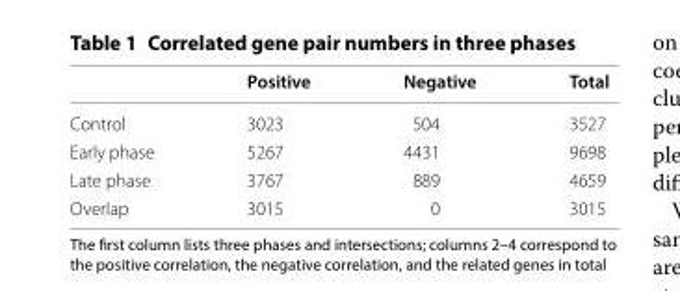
<table><thead><tr><td></td><td>Positive</td><td>Negative</td><td>Total</td></tr></thead><tbody><tr><td>Control</td><td>3023</td><td>504</td><td>3527</td></tr><tr><td>Early phase</td><td>5267</td><td>4431</td><td>9698</td></tr><tr><td>Late phase</td><td>3767</td><td>889</td><td>4659</td></tr><tr><td>Overlap</td><td>3015</td><td>0</td><td>3015</td></tr></tbody></table>